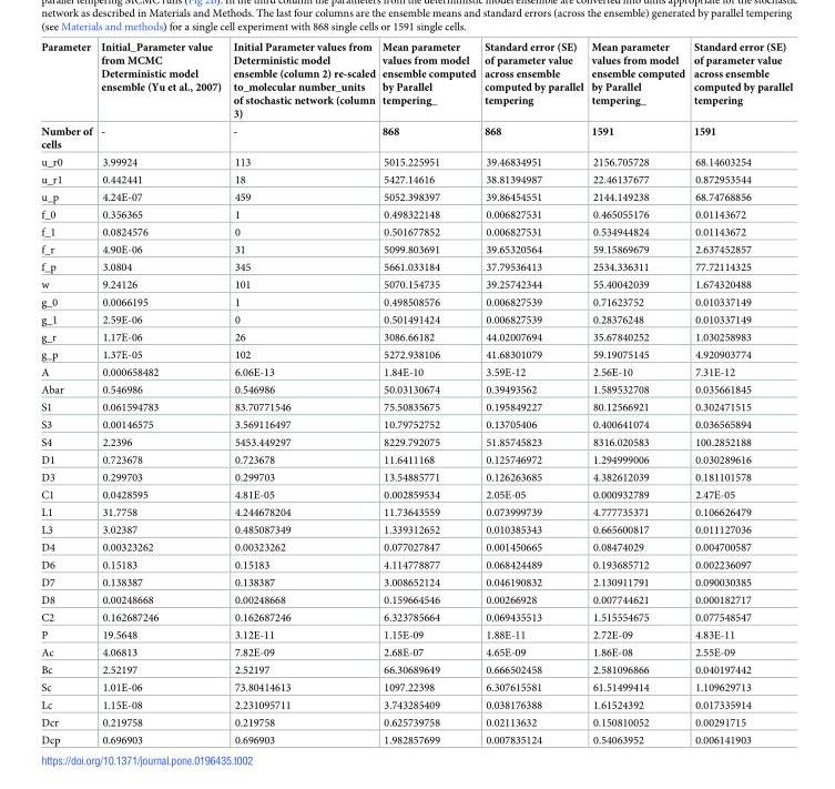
<table><thead><tr><td rowspan="2">Parameter Number of cells</td><td rowspan="2">Initial_Parameter value from MCMC Deterministic model ensemble (Yu et al., 2007) -</td><td rowspan="2">Initial Parameter values from Deterministic model ensemble (column 2) re-scaled to_molecular number_units of stochastic network (column 3) -</td><td rowspan="2">Mean parameter values from model ensemble computed by Parallel tempering_ 868</td><td rowspan="2">Standard error (SE) of parameter value across ensemble computed by parallel tempering 868</td><td rowspan="2">Mean parameter values from model ensemble computed by Parallel tempering_ 1591</td><td rowspan="2">Standard error (SE) of parameter value across ensemble computed by parallel tempering 1591</td></tr><tr></tr></thead><tbody><tr><td>u_r0</td><td>3.99924</td><td>113</td><td>5015.225951</td><td>39.46834951</td><td>2156.705728</td><td>68.14603254</td></tr><tr><td>u_r1</td><td>0.442441</td><td>18</td><td>5427.14616</td><td>38.81394987</td><td>22.46137677</td><td>0.872953544</td></tr><tr><td>u_p</td><td>4.24E-07</td><td>459</td><td>5052.398397</td><td>39.86454551</td><td>2144.149238</td><td>68.74768856</td></tr><tr><td>f_0</td><td>0.356365</td><td>1</td><td>0.498322148</td><td>0.006827531</td><td>0.465055176</td><td>0.01143672</td></tr><tr><td>f_1</td><td>0.0824576</td><td>0</td><td>0.501677852</td><td>0.006827531</td><td>0.534944824</td><td>0.01143672</td></tr><tr><td>f_r</td><td>4.90E-06</td><td>31</td><td>5099.803691</td><td>39.65320564</td><td>59.15869679</td><td>2.637452857</td></tr><tr><td>f_p</td><td>3.0804</td><td>345</td><td>5661.033184</td><td>37.79536413</td><td>2534.336311</td><td>77.72114325</td></tr><tr><td>w</td><td>9.24126</td><td>101</td><td>5070.154735</td><td>39.25742344</td><td>55.40042039</td><td>1.674320488</td></tr><tr><td>g_0</td><td>0.0066195</td><td>1</td><td>0.498508576</td><td>0.006827539</td><td>0.71623752</td><td>0.010337149</td></tr><tr><td>g_1</td><td>2.59E-06</td><td>0</td><td>0.501491424</td><td>0.006827539</td><td>0.28376248</td><td>0.010337149</td></tr><tr><td>g_r</td><td>1.17E-06</td><td>26</td><td>3086.66182</td><td>44.02007694</td><td>35.67840252</td><td>1.030258983</td></tr><tr><td>g_p</td><td>1.37E-05</td><td>102</td><td>5272.938106</td><td>41.68301079</td><td>59.19075145</td><td>4.920903774</td></tr><tr><td>A</td><td>0.000658482</td><td>6.06E-13</td><td>1.84E-10</td><td>3.59E-12</td><td>2.56E-10</td><td>7.31E-12</td></tr><tr><td>Abar</td><td>0.546986</td><td>0.546986</td><td>50.03130674</td><td>0.39493562</td><td>1.589532708</td><td>0.035661845</td></tr><tr><td>S1</td><td>0.061594783</td><td>83.70771546</td><td>75.50835675</td><td>0.195849227</td><td>80.12566921</td><td>0.302471515</td></tr><tr><td>S3</td><td>0.00146575</td><td>3.569116497</td><td>10.79752752</td><td>0.13705406</td><td>0.400641074</td><td>0.036565894</td></tr><tr><td>S4</td><td>2.2396</td><td>5453.449297</td><td>8229.792075</td><td>51.85745823</td><td>8316.020583</td><td>100.2852188</td></tr><tr><td>D1</td><td>0.723678</td><td>0.723678</td><td>11.6411168</td><td>0.125746972</td><td>1.294999006</td><td>0.030289616</td></tr><tr><td>D3</td><td>0.299703</td><td>0.299703</td><td>13.54885771</td><td>0.126263685</td><td>4.382612039</td><td>0.181101578</td></tr><tr><td>C1</td><td>0.0428595</td><td>4.81E-05</td><td>0.002859534</td><td>2.05E-05</td><td>0.000932789</td><td>2.47E-05</td></tr><tr><td>L1</td><td>31.7758</td><td>4.244678204</td><td>11.73643559</td><td>0.073999739</td><td>4.777735371</td><td>0.106626479</td></tr><tr><td>L3</td><td>3.02387</td><td>0.485087349</td><td>1.339312652</td><td>0.010385343</td><td>0.665600817</td><td>0.011127036</td></tr><tr><td>D4</td><td>0.00323262</td><td>0.00323262</td><td>0.077027847</td><td>0.001450665</td><td>0.08474029</td><td>0.004700587</td></tr><tr><td>D6</td><td>0.15183</td><td>0.15183</td><td>4.114778877</td><td>0.068424489</td><td>0.193685712</td><td>0.002236097</td></tr><tr><td>D7</td><td>0.138387</td><td>0.138387</td><td>3.008652124</td><td>0.046190832</td><td>2.130911791</td><td>0.090030385</td></tr><tr><td>D8</td><td>0.00248668</td><td>0.00248668</td><td>0.159664546</td><td>0.00266928</td><td>0.007744621</td><td>0.000182717</td></tr><tr><td>C2</td><td>0.162687246</td><td>0.162687246</td><td>6.323785664</td><td>0.069435513</td><td>1.515554675</td><td>0.077548547</td></tr><tr><td>P</td><td>19.5648</td><td>3.12E-11</td><td>1.15E-09</td><td>1.88E-11</td><td>2.72E-09</td><td>4.83E-11</td></tr><tr><td>Ac</td><td>4.06813</td><td>7.82E-09</td><td>2.68E-07</td><td>4.65E-09</td><td>1.86E-08</td><td>2.55E-09</td></tr><tr><td>Bc</td><td>2.52197</td><td>2.52197</td><td>66.30689649</td><td>0.666502458</td><td>2.581096866</td><td>0.040197442</td></tr><tr><td>Sc</td><td>1.01E-06</td><td>73.80414613</td><td>1097.22398</td><td>6.307615581</td><td>61.51499414</td><td>1.109629713</td></tr><tr><td>Lc</td><td>1.15E-08</td><td>2.231095711</td><td>3.743285409</td><td>0.038176388</td><td>1.61524392</td><td>0.017335914</td></tr><tr><td>Dcr</td><td>0.219758</td><td>0.219758</td><td>0.625739758</td><td>0.02113632</td><td>0.150810052</td><td>0.00291715</td></tr><tr><td>Dcp</td><td>0.696903</td><td>0.696903</td><td>1.982857699</td><td>0.007835124</td><td>0.54063952</td><td>0.006141903</td></tr></tbody></table>